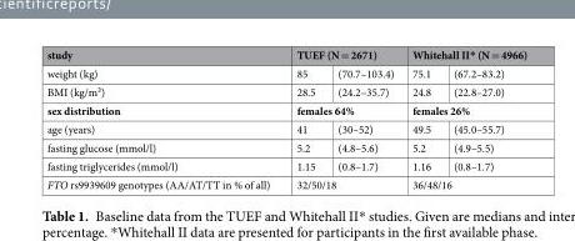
<table><thead><tr><td rowspan="2">study weight (kg)</td><td colspan="2">TUEF (N = 2671)</td><td colspan="2">Whitehall II* (N = 4966)</td></tr><tr><td>85</td><td>(70.7–103.4)</td><td>75.1</td><td>(67.2–83.2)</td></tr></thead><tbody><tr><td>BMI (kg/m²)</td><td>28.5</td><td>(24.2–35.7)</td><td>24.8</td><td>(22.8–27.0)</td></tr><tr><td>sex distribution</td><td colspan="2">females 64%</td><td colspan="2">females 26%</td></tr><tr><td>age (years)</td><td>41</td><td>(30–52)</td><td>49.5</td><td>(45.0–55.7)</td></tr><tr><td>fasting glucose (mmol/l)</td><td>5.2</td><td>(4.8–5.6)</td><td>5.2</td><td>(4.9–5.5)</td></tr><tr><td>fasting triglycerides (mmol/l)</td><td>1.15</td><td>(0.8–1.7)</td><td>1.16</td><td>(0.8–1.7)</td></tr><tr><td>FTO rs9939609 genotypes (AA/AT/TT in % of all)</td><td colspan="2">32/50/18</td><td colspan="2">36/48/16</td></tr></tbody></table>